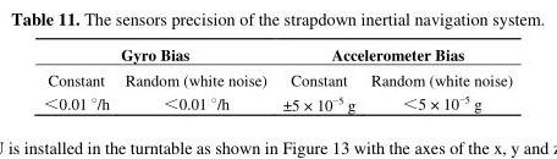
<table><thead><tr><td colspan="2">Gyro Bias</td><td colspan="2">Accelerometer Bias</td></tr><tr><td>Constant</td><td>Random (white noise)</td><td>Constant</td><td>Random (white noise)</td></tr></thead><tbody><tr><td>＜0.01 <sup>○</sup>/h</td><td>＜0.01 <sup>○</sup>/h</td><td>±5 × 10<sup>−5</sup> g</td><td>＜5 × 10<sup>−5</sup> g</td></tr></tbody></table>